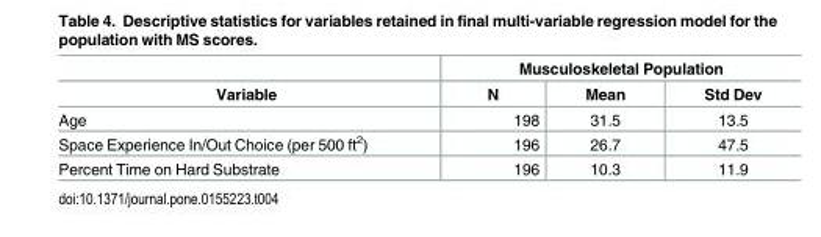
<table><thead><tr><td rowspan="2">Variable</td><td colspan="3">Musculoskeletal Population</td></tr><tr><td>N</td><td>Mean</td><td>Std Dev</td></tr></thead><tbody><tr><td>Age</td><td>198</td><td>31.5</td><td>13.5</td></tr><tr><td>Space Experience In/Out Choice (per 500 ft<sup>2</sup>)</td><td>196</td><td>26.7</td><td>47.5</td></tr><tr><td>Percent Time on Hard Substrate</td><td>196</td><td>10.3</td><td>11.9</td></tr></tbody></table>